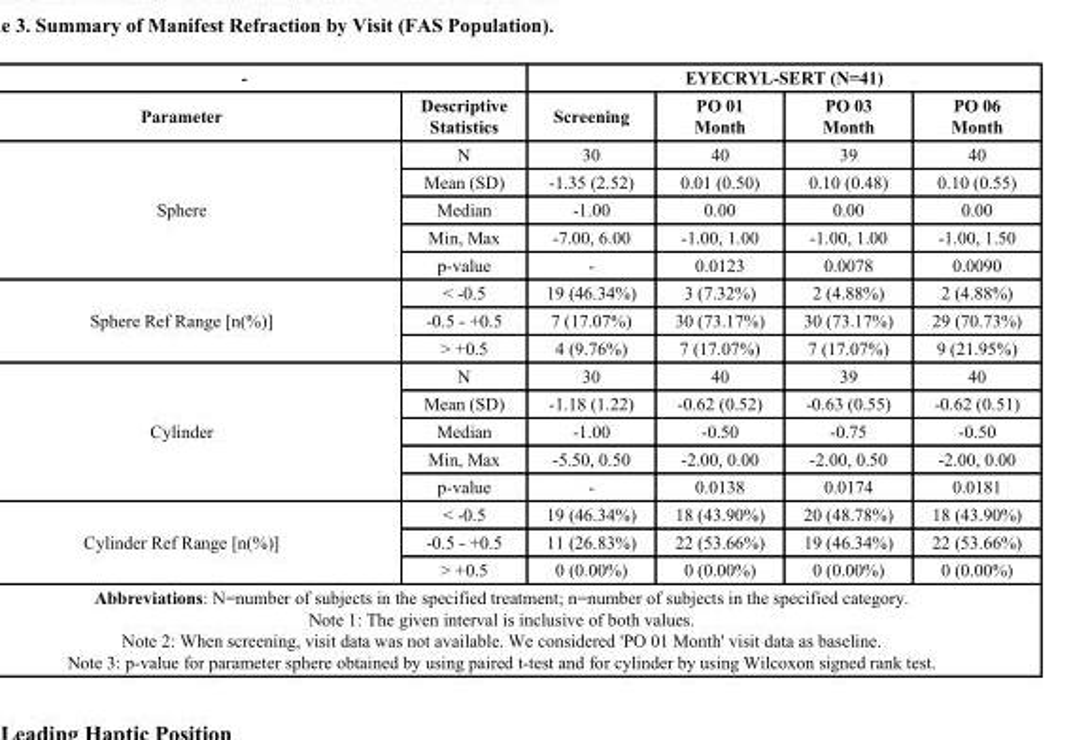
<table><thead><tr><td colspan="2">-</td><td colspan="4">EYECRYL-SERT (N=41)</td></tr><tr><td>Parameter</td><td>Descriptive Statistics</td><td>Screening</td><td>PO 01 Month</td><td>PO 03 Month</td><td>PO 06 Month</td></tr></thead><tbody><tr><td rowspan="5">Sphere</td><td>N</td><td>30</td><td>40</td><td>39</td><td>40</td></tr><tr><td>Mean (SD)</td><td>-1.35 (2.52)</td><td>0.01 (0.50)</td><td>0.10 (0.48)</td><td>0.10 (0.55)</td></tr><tr><td>Median</td><td>-1.00</td><td>0.00</td><td>0.00</td><td>0.00</td></tr><tr><td>Min, Max</td><td>-7.00, 6.00</td><td>-1.00, 1.00</td><td>-1.00, 1.00</td><td>-1.00, 1.50</td></tr><tr><td>p-value</td><td>-</td><td>0.0123</td><td>0.0078</td><td>0.0090</td></tr><tr><td rowspan="3">Sphere Ref Range [n(%)]</td><td>&lt; -0.5</td><td>19 (46.34%)</td><td>3 (7.32%)</td><td>2 (4.88%)</td><td>2 (4.88%)</td></tr><tr><td>-0.5 - +0.5</td><td>7 (17.07%)</td><td>30 (73.17%)</td><td>30 (73.17%)</td><td>29 (70.73%)</td></tr><tr><td>&gt; +0.5</td><td>4 (9.76%)</td><td>7 (17.07%)</td><td>7 (17.07%)</td><td>9 (21.95%)</td></tr><tr><td rowspan="5">Cylinder</td><td>N</td><td>30</td><td>40</td><td>39</td><td>40</td></tr><tr><td>Mean (SD)</td><td>-1.18 (1.22)</td><td>-0.62 (0.52)</td><td>-0.63 (0.55)</td><td>-0.62 (0.51)</td></tr><tr><td>Median</td><td>-1.00</td><td>-0.50</td><td>-0.75</td><td>-0.50</td></tr><tr><td>Min, Max</td><td>-5.50, 0.50</td><td>-2.00, 0.00</td><td>-2.00, 0.50</td><td>-2.00, 0.00</td></tr><tr><td>p-value</td><td>-</td><td>0.0138</td><td>0.0174</td><td>0.0181</td></tr><tr><td rowspan="3">Cylinder Ref Range [n(%)]</td><td>&lt; -0.5</td><td>19 (46.34%)</td><td>18 (43.90%)</td><td>20 (48.78%)</td><td>18 (43.90%)</td></tr><tr><td>-0.5 - +0.5</td><td>11 (26.83%)</td><td>22 (53.66%)</td><td>19 (46.34%)</td><td>22 (53.66%)</td></tr><tr><td>&gt; +0.5</td><td>0 (0.00%)</td><td>0 (0.00%)</td><td>0 (0.00%)</td><td>0 (0.00%)</td></tr><tr><td colspan="6">Abbreviations: N=number of subjects in the specified treatment; n=number of subjects in the specified category. Note 1: The given interval is inclusive of both values. Note 2: When screening, visit data was not available. We considered &#x27;PO 01 Month&#x27; visit data as baseline. Note 3: p-value for parameter sphere obtained by using paired t-test and for cylinder by using Wilcoxon signed rank test.</td></tr></tbody></table>